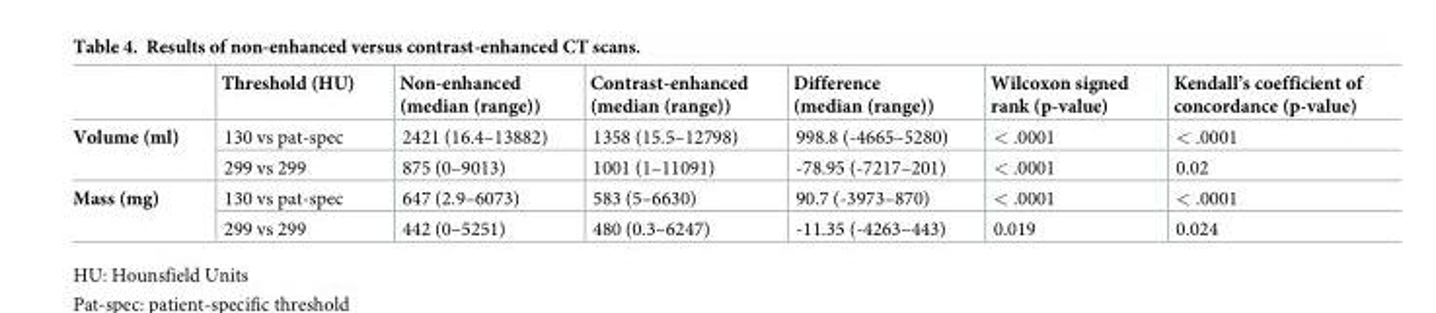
<table><thead><tr><td></td><td>Threshold (HU)</td><td>Non-enhanced (median (range))</td><td>Contrast-enhanced (median (range))</td><td>Difference (median (range))</td><td>Wilcoxon signed rank (p-value)</td><td>Kendall’s coefficient of concordance (p-value)</td></tr></thead><tbody><tr><td rowspan="2">Volume (ml)</td><td>130 vs pat-spec</td><td>2421 (16.4–13882)</td><td>1358 (15.5–12798)</td><td>998.8 (-4665–5280)</td><td>&lt; .0001</td><td>&lt; .0001</td></tr><tr><td>299 vs 299</td><td>875 (0–9013)</td><td>1001 (1–11091)</td><td>-78.95 (-7217–201)</td><td>&lt; .0001</td><td>0.02</td></tr><tr><td rowspan="2">Mass (mg)</td><td>130 vs pat-spec</td><td>647 (2.9–6073)</td><td>583 (5–6630)</td><td>90.7 (-3973–870)</td><td>&lt; .0001</td><td>&lt; .0001</td></tr><tr><td>299 vs 299</td><td>442 (0–5251)</td><td>480 (0.3–6247)</td><td>-11.35 (-4263–443)</td><td>0.019</td><td>0.024</td></tr></tbody></table>